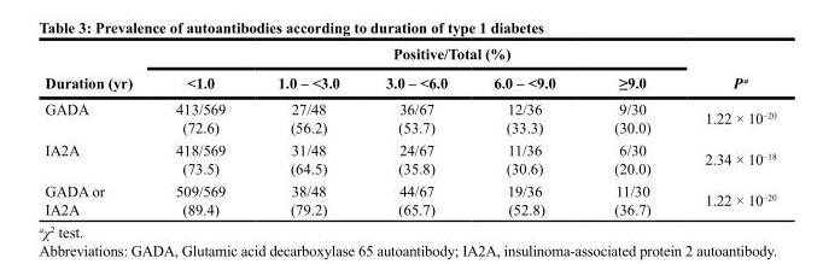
<table><thead><tr><td colspan="7">Positive/Total (%)</td></tr><tr><td>Duration (yr)</td><td>&lt;1.0</td><td>1.0 – &lt;3.0</td><td>3.0 – &lt;6.0</td><td>6.0 – &lt;9.0</td><td>≥9.0</td><td>P <sup>a</sup></td></tr></thead><tbody><tr><td>GADA</td><td>413/569 (72.6)</td><td>27/48 (56.2)</td><td>36/67 (53.7)</td><td>12/36 (33.3)</td><td>9/30 (30.0)</td><td>1.22 × 10<sup>–20</sup></td></tr><tr><td>IA2A</td><td>418/569 (73.5)</td><td>31/48 (64.5)</td><td>24/67 (35.8)</td><td>11/36 (30.6)</td><td>6/30 (20.0)</td><td>2.34 × 10<sup>–18</sup></td></tr><tr><td>GADA or IA2A</td><td>509/569 (89.4)</td><td>38/48 (79.2)</td><td>44/67 (65.7)</td><td>19/36 (52.8)</td><td>11/30 (36.7)</td><td>1.22 × 10<sup>–20</sup></td></tr></tbody></table>